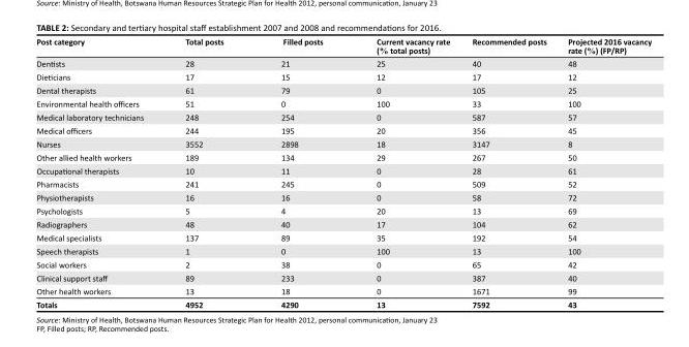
<table><thead><tr><td>Post category</td><td>Total posts</td><td>Filled posts</td><td>Current vacancy rate (% total posts)</td><td>Recommended posts</td><td>Projected 2016 vacancy rate (%) (FP/RP)</td></tr></thead><tbody><tr><td>Dentists</td><td>28</td><td>21</td><td>25</td><td>40</td><td>48</td></tr><tr><td>Dieticians</td><td>17</td><td>15</td><td>12</td><td>17</td><td>12</td></tr><tr><td>Dental therapists</td><td>61</td><td>79</td><td>0</td><td>105</td><td>25</td></tr><tr><td>Environmental health officers</td><td>51</td><td>0</td><td>100</td><td>33</td><td>100</td></tr><tr><td>Medical laboratory technicians</td><td>248</td><td>254</td><td>0</td><td>587</td><td>57</td></tr><tr><td>Medical officers</td><td>244</td><td>195</td><td>20</td><td>356</td><td>45</td></tr><tr><td>Nurses</td><td>3552</td><td>2898</td><td>18</td><td>3147</td><td>8</td></tr><tr><td>Other allied health workers</td><td>189</td><td>134</td><td>29</td><td>267</td><td>50</td></tr><tr><td>Occupational therapists</td><td>10</td><td>11</td><td>0</td><td>28</td><td>61</td></tr><tr><td>Pharmacists</td><td>241</td><td>245</td><td>0</td><td>509</td><td>52</td></tr><tr><td>Physiotherapists</td><td>16</td><td>16</td><td>0</td><td>58</td><td>72</td></tr><tr><td>Psychologists</td><td>5</td><td>4</td><td>20</td><td>13</td><td>69</td></tr><tr><td>Radiographers</td><td>48</td><td>40</td><td>17</td><td>104</td><td>62</td></tr><tr><td>Medical specialists</td><td>137</td><td>89</td><td>35</td><td>192</td><td>54</td></tr><tr><td>Speech therapists</td><td>1</td><td>0</td><td>100</td><td>13</td><td>100</td></tr><tr><td>Social workers</td><td>2</td><td>38</td><td>0</td><td>65</td><td>42</td></tr><tr><td>Clinical support staff</td><td>89</td><td>233</td><td>0</td><td>387</td><td>40</td></tr><tr><td>Other health workers</td><td>13</td><td>18</td><td>0</td><td>1671</td><td>99</td></tr><tr><td>Totals</td><td>4952</td><td>4290</td><td>13</td><td>7592</td><td>43</td></tr></tbody></table>